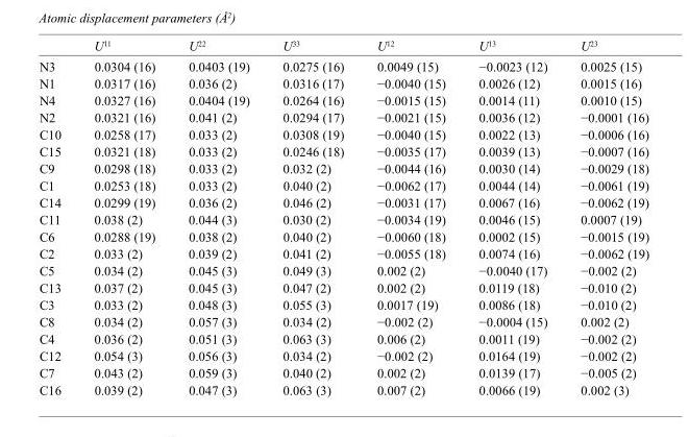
<table><thead><tr><td></td><td>U<sup>11</sup></td><td>U<sup>22</sup></td><td>U<sup>33</sup></td><td>U<sup>12</sup></td><td>U<sup>13</sup></td><td>U<sup>23</sup></td></tr></thead><tbody><tr><td>N3</td><td>0.0304 (16)</td><td>0.0403 (19)</td><td>0.0275 (16)</td><td>0.0049 (15)</td><td>−0.0023 (12)</td><td>0.0025 (15)</td></tr><tr><td>N1</td><td>0.0317 (16)</td><td>0.036 (2)</td><td>0.0316 (17)</td><td>−0.0040 (15)</td><td>0.0026 (12)</td><td>0.0015 (16)</td></tr><tr><td>N4</td><td>0.0327 (16)</td><td>0.0404 (19)</td><td>0.0264 (16)</td><td>−0.0015 (15)</td><td>0.0014 (11)</td><td>0.0010 (15)</td></tr><tr><td>N2</td><td>0.0321 (16)</td><td>0.041 (2)</td><td>0.0294 (17)</td><td>−0.0021 (15)</td><td>0.0036 (12)</td><td>−0.0001 (16)</td></tr><tr><td>C10</td><td>0.0258 (17)</td><td>0.033 (2)</td><td>0.0308 (19)</td><td>−0.0040 (15)</td><td>0.0022 (13)</td><td>−0.0006 (16)</td></tr><tr><td>C15</td><td>0.0321 (18)</td><td>0.033 (2)</td><td>0.0246 (18)</td><td>−0.0035 (17)</td><td>0.0039 (13)</td><td>−0.0007 (16)</td></tr><tr><td>C9</td><td>0.0298 (18)</td><td>0.033 (2)</td><td>0.032 (2)</td><td>−0.0044 (16)</td><td>0.0030 (14)</td><td>−0.0029 (18)</td></tr><tr><td>C1</td><td>0.0253 (18)</td><td>0.033 (2)</td><td>0.040 (2)</td><td>−0.0062 (17)</td><td>0.0044 (14)</td><td>−0.0061 (19)</td></tr><tr><td>C14</td><td>0.0299 (19)</td><td>0.036 (2)</td><td>0.046 (2)</td><td>−0.0031 (17)</td><td>0.0067 (16)</td><td>−0.0062 (19)</td></tr><tr><td>C11</td><td>0.038 (2)</td><td>0.044 (3)</td><td>0.030 (2)</td><td>−0.0034 (19)</td><td>0.0046 (15)</td><td>0.0007 (19)</td></tr><tr><td>C6</td><td>0.0288 (19)</td><td>0.038 (2)</td><td>0.040 (2)</td><td>−0.0060 (18)</td><td>0.0002 (15)</td><td>−0.0015 (19)</td></tr><tr><td>C2</td><td>0.033 (2)</td><td>0.039 (2)</td><td>0.041 (2)</td><td>−0.0055 (18)</td><td>0.0074 (16)</td><td>−0.0062 (19)</td></tr><tr><td>C5</td><td>0.034 (2)</td><td>0.045 (3)</td><td>0.049 (3)</td><td>0.002 (2)</td><td>−0.0040 (17)</td><td>−0.002 (2)</td></tr><tr><td>C13</td><td>0.037 (2)</td><td>0.045 (3)</td><td>0.047 (2)</td><td>0.002 (2)</td><td>0.0119 (18)</td><td>−0.010 (2)</td></tr><tr><td>C3</td><td>0.033 (2)</td><td>0.048 (3)</td><td>0.055 (3)</td><td>0.0017 (19)</td><td>0.0086 (18)</td><td>−0.010 (2)</td></tr><tr><td>C8</td><td>0.034 (2)</td><td>0.057 (3)</td><td>0.034 (2)</td><td>−0.002 (2)</td><td>−0.0004 (15)</td><td>0.002 (2)</td></tr><tr><td>C4</td><td>0.036 (2)</td><td>0.051 (3)</td><td>0.063 (3)</td><td>0.006 (2)</td><td>0.0011 (19)</td><td>−0.002 (2)</td></tr><tr><td>C12</td><td>0.054 (3)</td><td>0.056 (3)</td><td>0.034 (2)</td><td>−0.002 (2)</td><td>0.0164 (19)</td><td>−0.002 (2)</td></tr><tr><td>C7</td><td>0.043 (2)</td><td>0.059 (3)</td><td>0.040 (2)</td><td>0.002 (2)</td><td>0.0139 (17)</td><td>−0.005 (2)</td></tr><tr><td>C16</td><td>0.039 (2)</td><td>0.047 (3)</td><td>0.063 (3)</td><td>0.007 (2)</td><td>0.0066 (19)</td><td>0.002 (3)</td></tr></tbody></table>